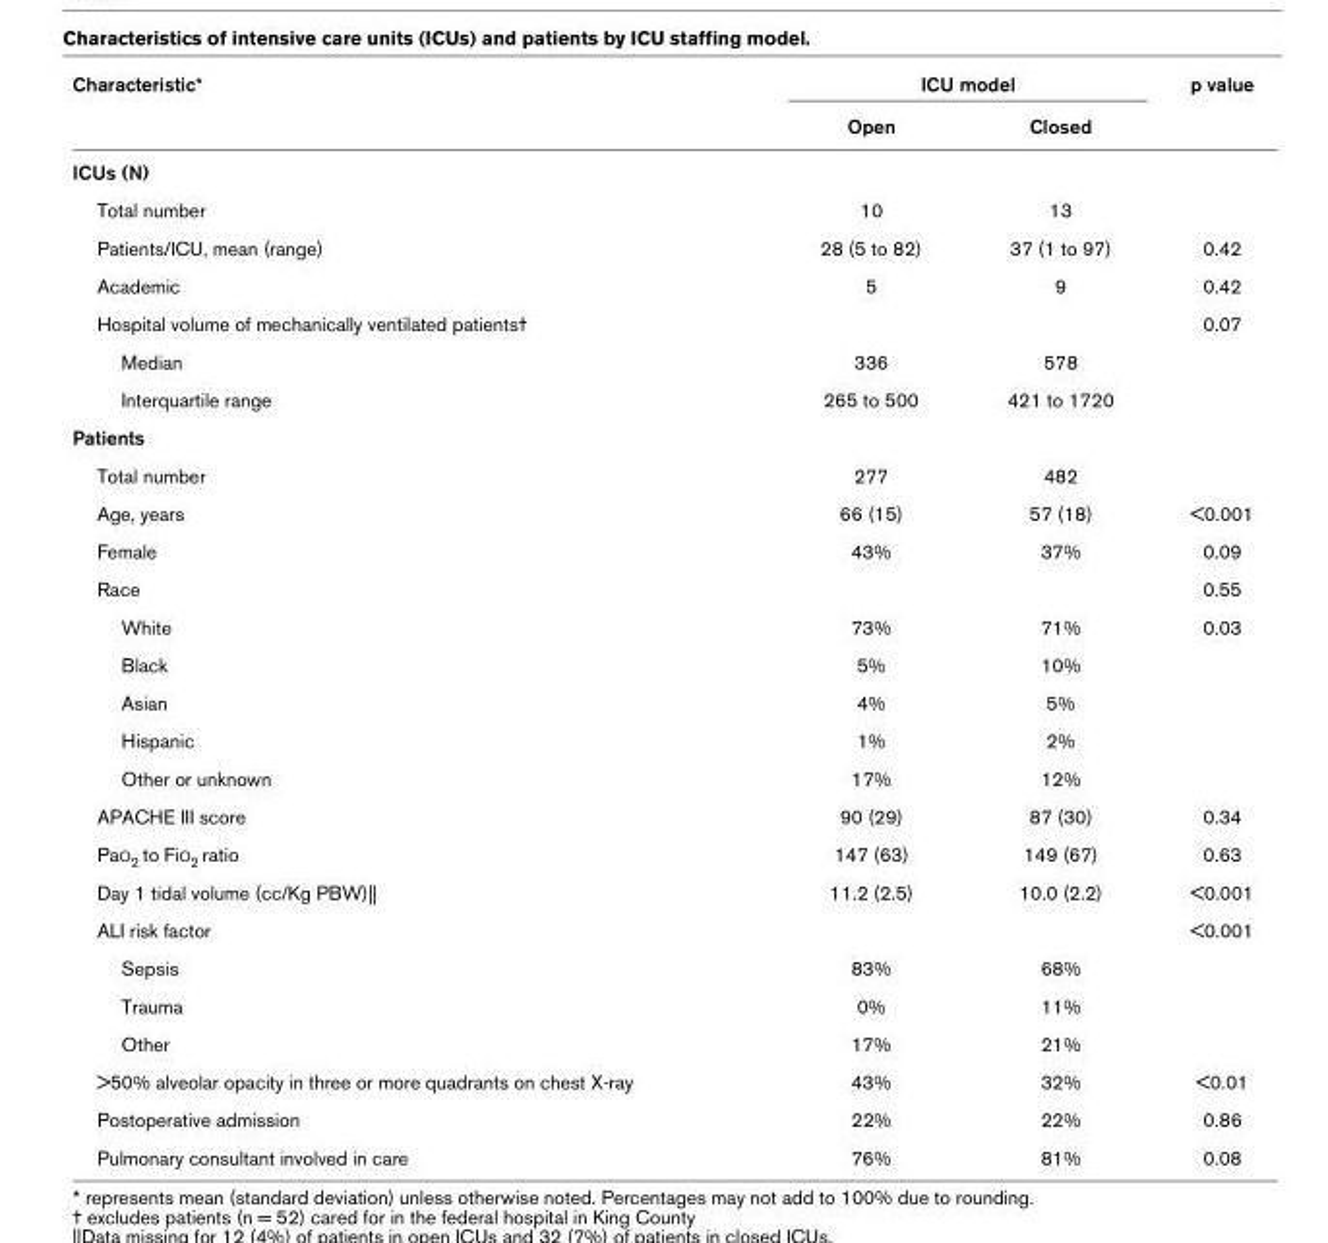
<table><thead><tr><td rowspan="2">Characteristic*</td><td colspan="2">ICU model</td><td rowspan="2">p value</td></tr><tr><td>Open</td><td>Closed</td></tr></thead><tbody><tr><td colspan="4">ICUs (N)</td></tr><tr><td>Total number</td><td>10</td><td>13</td><td></td></tr><tr><td>Patients/ICU, mean (range)</td><td>28 (5 to 82)</td><td>37 (1 to 97)</td><td>0.42</td></tr><tr><td>Academic</td><td>5</td><td>9</td><td>0.42</td></tr><tr><td>Hospital volume of mechanically ventilated patients†</td><td></td><td></td><td>0.07</td></tr><tr><td>Median</td><td>336</td><td>578</td><td></td></tr><tr><td>Interquartile range</td><td>265 to 500</td><td>421 to 1720</td><td></td></tr><tr><td colspan="4">Patients</td></tr><tr><td>Total number</td><td>277</td><td>482</td><td></td></tr><tr><td>Age, years</td><td>66 (15)</td><td>57 (18)</td><td>&lt;0.001</td></tr><tr><td>Female</td><td>43%</td><td>37%</td><td>0.09</td></tr><tr><td>Race</td><td></td><td></td><td>0.55</td></tr><tr><td>White</td><td>73%</td><td>71%</td><td>0.03</td></tr><tr><td>Black</td><td>5%</td><td>10%</td><td></td></tr><tr><td>Asian</td><td>4%</td><td>5%</td><td></td></tr><tr><td>Hispanic</td><td>1%</td><td>2%</td><td></td></tr><tr><td>Other or unknown</td><td>17%</td><td>12%</td><td></td></tr><tr><td>APACHE III score</td><td>90 (29)</td><td>87 (30)</td><td>0.34</td></tr><tr><td>PaO<sub>2</sub> to FiO<sub>2</sub> ratio</td><td>147 (63)</td><td>149 (67)</td><td>0.63</td></tr><tr><td>Day 1 tidal volume (cc/Kg PBW)||</td><td>11.2 (2.5)</td><td>10.0 (2.2)</td><td>&lt;0.001</td></tr><tr><td>ALI risk factor</td><td></td><td></td><td>&lt;0.001</td></tr><tr><td>Sepsis</td><td>83%</td><td>68%</td><td></td></tr><tr><td>Trauma</td><td>0%</td><td>11%</td><td></td></tr><tr><td>Other</td><td>17%</td><td>21%</td><td></td></tr><tr><td>&gt;50% alveolar opacity in three or more quadrants on chest X-ray</td><td>43%</td><td>32%</td><td>&lt;0.01</td></tr><tr><td>Postoperative admission</td><td>22%</td><td>22%</td><td>0.86</td></tr><tr><td>Pulmonary consultant involved in care</td><td>76%</td><td>81%</td><td>0.08</td></tr></tbody></table>